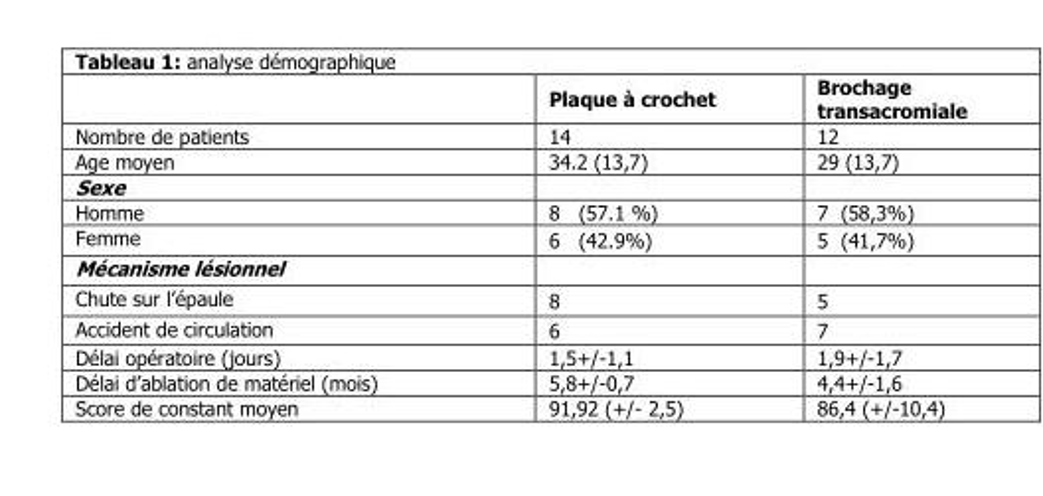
<table><thead><tr><td></td><td>Plaque à crochet</td><td>Brochage transacromiale</td></tr></thead><tbody><tr><td>Nombre de patients</td><td>14</td><td>12</td></tr><tr><td>Age moyen</td><td>34.2 (13,7)</td><td>29 (13,7)</td></tr><tr><td colspan="3">Sexe</td></tr><tr><td>Homme</td><td>8 (57.1 %)</td><td>7 (58,3%)</td></tr><tr><td>Femme</td><td>6 (42.9%)</td><td>5 (41,7%)</td></tr><tr><td colspan="3">Mécanisme lésionnel</td></tr><tr><td>Chute sur l’épaule</td><td>8</td><td>5</td></tr><tr><td>Accident de circulation</td><td>6</td><td>7</td></tr><tr><td>Délai opératoire (jours)</td><td>1,5+/-1,1</td><td>1,9+/-1,7</td></tr><tr><td>Délai d’ablation de matériel (mois)</td><td>5,8+/-0,7</td><td>4,4+/-1,6</td></tr><tr><td>Score de constant moyen</td><td>91,92 (+/- 2,5)</td><td>86,4 (+/-10,4)</td></tr></tbody></table>